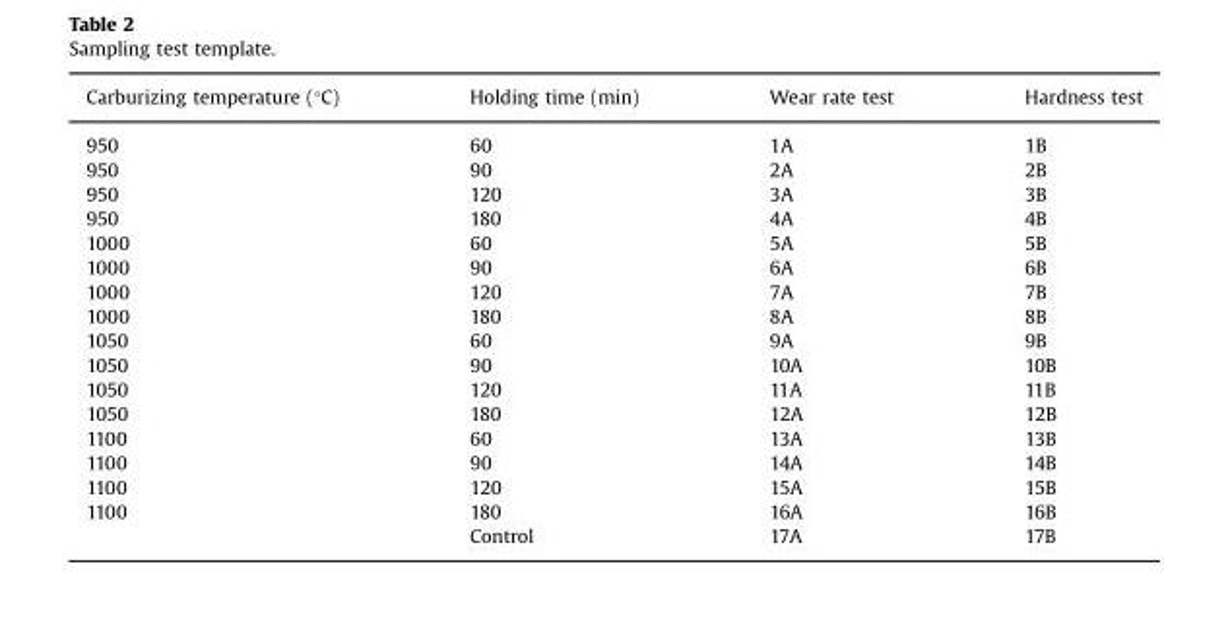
<table><thead><tr><td>Carburizing temperature (°C)</td><td>Holding time (min)</td><td>Wear rate test</td><td>Hardness test</td></tr></thead><tbody><tr><td>950</td><td>60</td><td>1A</td><td>1B</td></tr><tr><td>950</td><td>90</td><td>2A</td><td>2B</td></tr><tr><td>950</td><td>120</td><td>3A</td><td>3B</td></tr><tr><td>950</td><td>180</td><td>4A</td><td>4B</td></tr><tr><td>1000</td><td>60</td><td>5A</td><td>5B</td></tr><tr><td>1000</td><td>90</td><td>6A</td><td>6B</td></tr><tr><td>1000</td><td>120</td><td>7A</td><td>7B</td></tr><tr><td>1000</td><td>180</td><td>8A</td><td>8B</td></tr><tr><td>1050</td><td>60</td><td>9A</td><td>9B</td></tr><tr><td>1050</td><td>90</td><td>10A</td><td>10B</td></tr><tr><td>1050</td><td>120</td><td>11A</td><td>11B</td></tr><tr><td>1050</td><td>180</td><td>12A</td><td>12B</td></tr><tr><td>1100</td><td>60</td><td>13A</td><td>13B</td></tr><tr><td>1100</td><td>90</td><td>14A</td><td>14B</td></tr><tr><td>1100</td><td>120</td><td>15A</td><td>15B</td></tr><tr><td rowspan="2">1100</td><td>180</td><td>16A</td><td>16B</td></tr><tr><td>Control</td><td>17A</td><td>17B</td></tr></tbody></table>